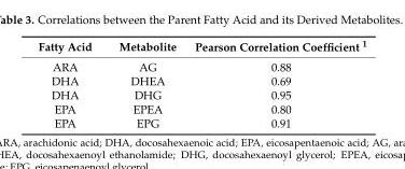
<table><thead><tr><td>Fatty Acid</td><td>Metabolite</td><td>Pearson Correlation Coefficient <sup>1</sup></td></tr></thead><tbody><tr><td>ARA</td><td>AG</td><td>0.88</td></tr><tr><td>DHA</td><td>DHEA</td><td>0.69</td></tr><tr><td>DHA</td><td>DHG</td><td>0.95</td></tr><tr><td>EPA</td><td>EPEA</td><td>0.80</td></tr><tr><td>EPA</td><td>EPG</td><td>0.91</td></tr></tbody></table>